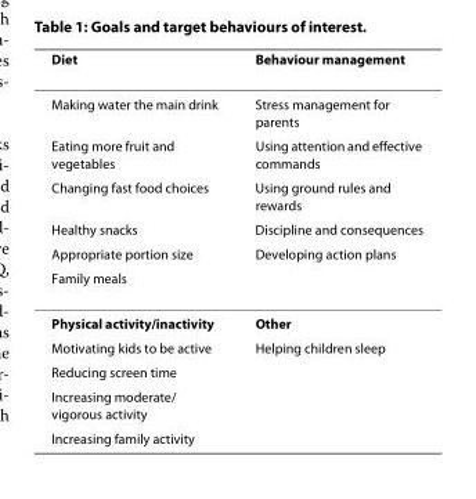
<table><thead><tr><td>Diet</td><td>Behaviour management</td></tr></thead><tbody><tr><td>Making water the main drink</td><td>Stress management for parents</td></tr><tr><td>Eating more fruit and vegetables</td><td>Using attention and effective commands</td></tr><tr><td>Changing fast food choices</td><td>Using ground rules and rewards</td></tr><tr><td>Healthy snacks</td><td>Discipline and consequences</td></tr><tr><td>Appropriate portion size</td><td>Developing action plans</td></tr><tr><td colspan="2">Family meals</td></tr><tr><td>Physical activity/inactivity</td><td>Other</td></tr><tr><td>Motivating kids to be active</td><td>Helping children sleep</td></tr><tr><td colspan="2">Reducing screen time</td></tr><tr><td colspan="2">Increasing moderate/ vigorous activity</td></tr><tr><td>Increasing family activity</td><td></td></tr></tbody></table>